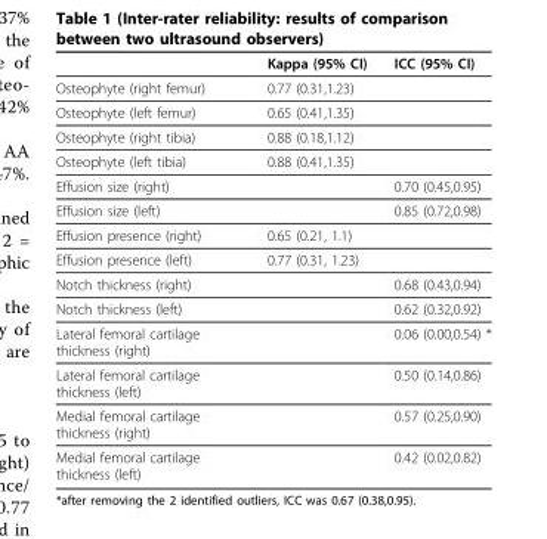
<table><thead><tr><td></td><td>Kappa (95% CI)</td><td>ICC (95% CI)</td></tr></thead><tbody><tr><td>Osteophyte (right femur)</td><td>0.77 (0.31,1.23)</td><td></td></tr><tr><td>Osteophyte (left femur)</td><td>0.65 (0.41,1.35)</td><td></td></tr><tr><td>Osteophyte (right tibia)</td><td>0.88 (0.18,1.12)</td><td></td></tr><tr><td>Osteophyte (left tibia)</td><td>0.88 (0.41,1.35)</td><td></td></tr><tr><td>Effusion size (right)</td><td></td><td>0.70 (0.45,0.95)</td></tr><tr><td>Effusion size (left)</td><td></td><td>0.85 (0.72,0.98)</td></tr><tr><td>Effusion presence (right)</td><td>0.65 (0.21, 1.1)</td><td></td></tr><tr><td>Effusion presence (left)</td><td>0.77 (0.31, 1.23)</td><td></td></tr><tr><td>Notch thickness (right)</td><td></td><td>0.68 (0.43,0.94)</td></tr><tr><td>Notch thickness (left)</td><td></td><td>0.62 (0.32,0.92)</td></tr><tr><td>Lateral femoral cartilage thickness (right)</td><td></td><td>0.06 (0.00,0.54) *</td></tr><tr><td>Lateral femoral cartilage thickness (left)</td><td></td><td>0.50 (0.14,0.86)</td></tr><tr><td>Medial femoral cartilage thickness (right)</td><td></td><td>0.57 (0.25,0.90)</td></tr><tr><td>Medial femoral cartilage thickness (left)</td><td></td><td>0.42 (0.02,0.82)</td></tr></tbody></table>